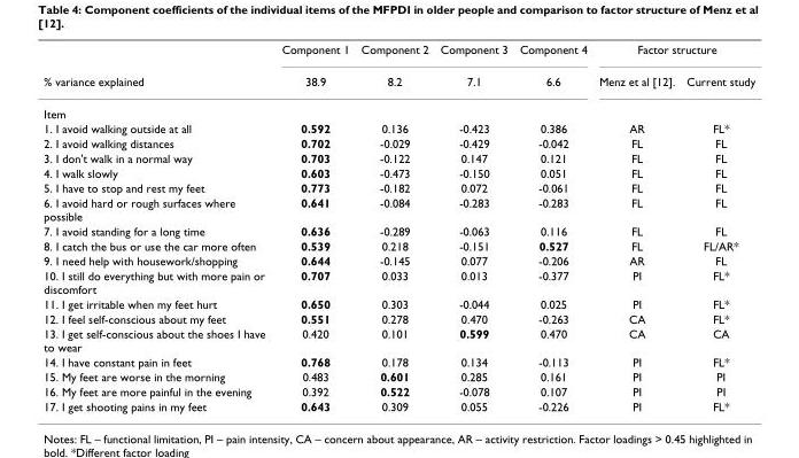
<table><thead><tr><td rowspan="2">% variance explained</td><td rowspan="2">Component 1 38.9</td><td rowspan="2">Component 2 8.2</td><td rowspan="2">Component 3 7.1</td><td rowspan="2">Component 4 6.6</td><td colspan="2">Factor structure</td></tr><tr><td>Menz et al [12].</td><td>Current study</td></tr></thead><tbody><tr><td colspan="7">Item</td></tr><tr><td>1. I avoid walking outside at all</td><td>0.592</td><td>0.136</td><td>-0.423</td><td>0.386</td><td>AR</td><td>FL*</td></tr><tr><td>2. I avoid walking distances</td><td>0.702</td><td>-0.029</td><td>-0.429</td><td>-0.042</td><td>FL</td><td>FL</td></tr><tr><td>3. I don&#x27;t walk in a normal way</td><td>0.703</td><td>-0.122</td><td>0.147</td><td>0.121</td><td>FL</td><td>FL</td></tr><tr><td>4. I walk slowly</td><td>0.603</td><td>-0.473</td><td>-0.150</td><td>0.051</td><td>FL</td><td>FL</td></tr><tr><td>5. I have to stop and rest my feet</td><td>0.773</td><td>-0.182</td><td>0.072</td><td>-0.061</td><td>FL</td><td>FL</td></tr><tr><td>6. I avoid hard or rough surfaces where possible</td><td>0.641</td><td>-0.084</td><td>-0.283</td><td>-0.283</td><td>FL</td><td>FL</td></tr><tr><td>7. I avoid standing for a long time</td><td>0.636</td><td>-0.289</td><td>-0.063</td><td>0.116</td><td>FL</td><td>FL</td></tr><tr><td>8. I catch the bus or use the car more often</td><td>0.539</td><td>0.218</td><td>-0.151</td><td>0.527</td><td>FL</td><td>FL/AR*</td></tr><tr><td>9. I need help with housework/shopping</td><td>0.644</td><td>-0.145</td><td>0.077</td><td>-0.206</td><td>AR</td><td>FL</td></tr><tr><td>10. I still do everything but with more pain or discomfort</td><td>0.707</td><td>0.033</td><td>0.013</td><td>-0.377</td><td>PI</td><td>FL*</td></tr><tr><td>11. I get irritable when my feet hurt</td><td>0.650</td><td>0.303</td><td>-0.044</td><td>0.025</td><td>PI</td><td>FL*</td></tr><tr><td>12. I feel self-conscious about my feet</td><td>0.551</td><td>0.278</td><td>0.470</td><td>-0.263</td><td>CA</td><td>FL*</td></tr><tr><td>13. I get self-conscious about the shoes I have to wear</td><td>0.420</td><td>0.101</td><td>0.599</td><td>0.470</td><td>CA</td><td>CA</td></tr><tr><td>14. I have constant pain in feet</td><td>0.768</td><td>0.178</td><td>0.134</td><td>-0.113</td><td>PI</td><td>FL*</td></tr><tr><td>15. My feet are worse in the morning</td><td>0.483</td><td>0.601</td><td>0.285</td><td>0.161</td><td>PI</td><td>PI</td></tr><tr><td>16. My feet are more painful in the evening</td><td>0.392</td><td>0.522</td><td>-0.078</td><td>0.107</td><td>PI</td><td>PI</td></tr><tr><td>17. I get shooting pains in my feet</td><td>0.643</td><td>0.309</td><td>0.055</td><td>-0.226</td><td>PI</td><td>FL*</td></tr></tbody></table>